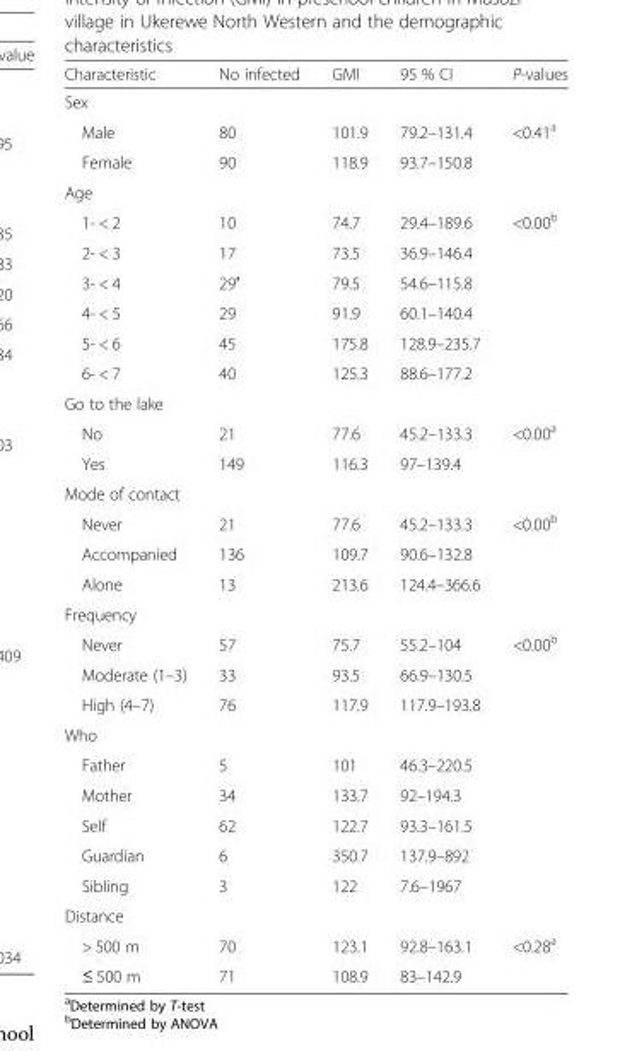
<table><thead><tr><td>Characteristic</td><td>No infected</td><td>GMI</td><td>95 % CI</td><td>P-values</td></tr></thead><tbody><tr><td colspan="5">Sex</td></tr><tr><td>Male</td><td>80</td><td>101.9</td><td>79.2–131.4</td><td rowspan="2">&lt;0.41<sup>a</sup></td></tr><tr><td>Female</td><td>90</td><td>118.9</td><td>93.7–150.8</td></tr><tr><td colspan="5">Age</td></tr><tr><td>1- &lt; 2</td><td>10</td><td>74.7</td><td>29.4–189.6</td><td rowspan="6">&lt;0.00<sup>b</sup></td></tr><tr><td>2- &lt; 3</td><td>17</td><td>73.5</td><td>36.9–146.4</td></tr><tr><td>3- &lt; 4</td><td>29′</td><td>79.5</td><td>54.6–115.8</td></tr><tr><td>4- &lt; 5</td><td>29</td><td>91.9</td><td>60.1–140.4</td></tr><tr><td>5- &lt; 6</td><td>45</td><td>175.8</td><td>128.9–235.7</td></tr><tr><td>6- &lt; 7</td><td>40</td><td>125.3</td><td>88.6–177.2</td></tr><tr><td colspan="5">Go to the lake</td></tr><tr><td>No</td><td>21</td><td>77.6</td><td>45.2–133.3</td><td rowspan="2">&lt;0.00<sup>a</sup></td></tr><tr><td>Yes</td><td>149</td><td>116.3</td><td>97–139.4</td></tr><tr><td colspan="5">Mode of contact</td></tr><tr><td>Never</td><td>21</td><td>77.6</td><td>45.2–133.3</td><td rowspan="3">&lt;0.00<sup>b</sup></td></tr><tr><td>Accompanied</td><td>136</td><td>109.7</td><td>90.6–132.8</td></tr><tr><td>Alone</td><td>13</td><td>213.6</td><td>124.4–366.6</td></tr><tr><td colspan="5">Frequency</td></tr><tr><td>Never</td><td>57</td><td>75.7</td><td>55.2–104</td><td rowspan="3">&lt;0.00<sup>b</sup></td></tr><tr><td>Moderate (1–3)</td><td>33</td><td>93.5</td><td>66.9–130.5</td></tr><tr><td>High (4–7)</td><td>76</td><td>117.9</td><td>117.9–193.8</td></tr><tr><td colspan="5">Who</td></tr><tr><td>Father</td><td>5</td><td>101</td><td>46.3–220.5</td><td rowspan="5"></td></tr><tr><td>Mother</td><td>34</td><td>133.7</td><td>92–194.3</td></tr><tr><td>Self</td><td>62</td><td>122.7</td><td>93.3–161.5</td></tr><tr><td>Guardian</td><td>6</td><td>350.7</td><td>137.9–892</td></tr><tr><td>Sibling</td><td>3</td><td>122</td><td>7.6–1967</td></tr><tr><td colspan="5">Distance</td></tr><tr><td>&gt; 500 m</td><td>70</td><td>123.1</td><td>92.8–163.1</td><td rowspan="2">&lt;0.28<sup>a</sup></td></tr><tr><td>≤ 500 m</td><td>71</td><td>108.9</td><td>83–142.9</td></tr></tbody></table>